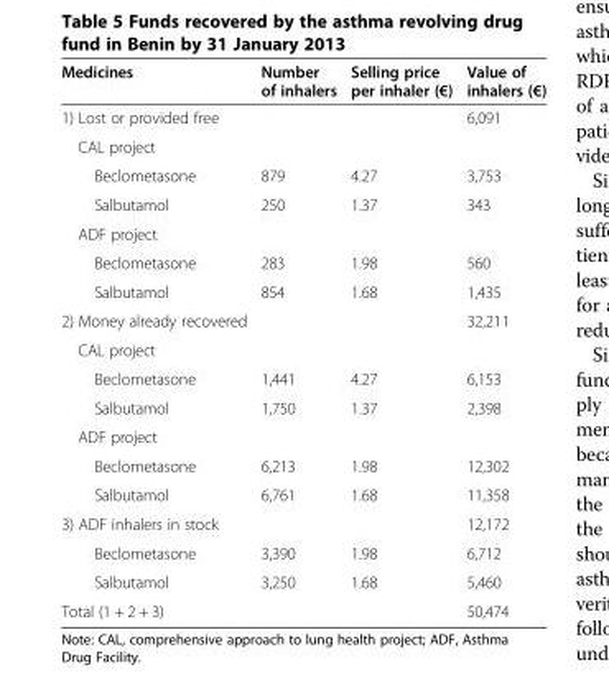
<table><thead><tr><td>Medicines</td><td>Number of inhalers</td><td>Selling price per inhaler (€)</td><td>Value of inhalers (€)</td></tr></thead><tbody><tr><td>1) Lost or provided free</td><td></td><td></td><td>6,091</td></tr><tr><td colspan="4">CAL project</td></tr><tr><td>Beclometasone</td><td>879</td><td>4.27</td><td>3,753</td></tr><tr><td>Salbutamol</td><td>250</td><td>1.37</td><td>343</td></tr><tr><td colspan="4">ADF project</td></tr><tr><td>Beclometasone</td><td>283</td><td>1.98</td><td>560</td></tr><tr><td>Salbutamol</td><td>854</td><td>1.68</td><td>1,435</td></tr><tr><td>2) Money already recovered</td><td></td><td></td><td>32,211</td></tr><tr><td colspan="4">CAL project</td></tr><tr><td>Beclometasone</td><td>1,441</td><td>4.27</td><td>6,153</td></tr><tr><td>Salbutamol</td><td>1,750</td><td>1.37</td><td>2,398</td></tr><tr><td colspan="4">ADF project</td></tr><tr><td>Beclometasone</td><td>6,213</td><td>1.98</td><td>12,302</td></tr><tr><td>Salbutamol</td><td>6,761</td><td>1.68</td><td>11,358</td></tr><tr><td>3) ADF inhalers in stock</td><td></td><td></td><td>12,172</td></tr><tr><td>Beclometasone</td><td>3,390</td><td>1.98</td><td>6,712</td></tr><tr><td>Salbutamol</td><td>3,250</td><td>1.68</td><td>5,460</td></tr><tr><td>Total (1 + 2 + 3)</td><td></td><td></td><td>50,474</td></tr></tbody></table>